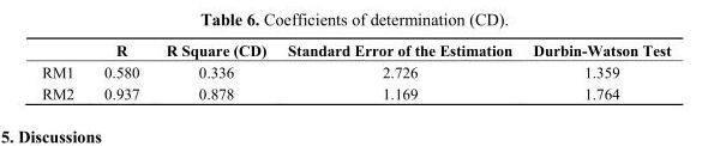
<table><thead><tr><td></td><td>R</td><td>R Square (CD)</td><td>Standard Error of the Estimation</td><td>Durbin-Watson Test</td></tr></thead><tbody><tr><td>RM1</td><td>0.580</td><td>0.336</td><td>2.726</td><td>1.359</td></tr><tr><td>RM2</td><td>0.937</td><td>0.878</td><td>1.169</td><td>1.764</td></tr></tbody></table>